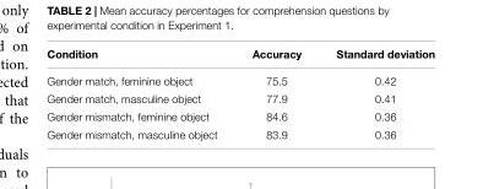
<table><thead><tr><td>Condition</td><td>Accuracy</td><td>Standard deviation</td></tr></thead><tbody><tr><td>Gender match, feminine object</td><td>75.5</td><td>0.42</td></tr><tr><td>Gender match, masculine object</td><td>77.9</td><td>0.41</td></tr><tr><td>Gender mismatch, feminine object</td><td>84.6</td><td>0.36</td></tr><tr><td>Gender mismatch, masculine object</td><td>83.9</td><td>0.36</td></tr></tbody></table>